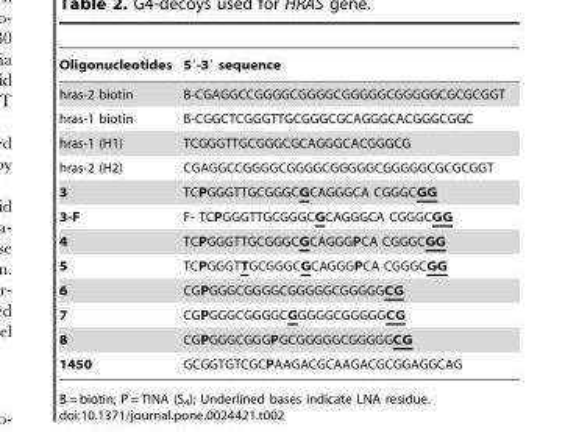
<table><thead><tr><td>Oligonucleotides</td><td>5′-3′ sequence</td></tr></thead><tbody><tr><td>hras-2 biotin</td><td>B-CGAGGCCGGGGCGGGGCGGGGGCGGGGGCGCGCGGT</td></tr><tr><td>hras-1 biotin</td><td>B-CGGCTCGGGTTGCGGGCGCAGGGCACGGGCGGC</td></tr><tr><td>hras-1 (H1)</td><td>TCGGGTTGCGGGCGCAGGGCACGGGCG</td></tr><tr><td>hras-2 (H2)</td><td>CGAGGCCGGGGCGGGGCGGGGGCGGGGGCGCGCGGT</td></tr><tr><td>3</td><td>TCPGGGTTGCGGGCGCAGGGCA CGGGCGG</td></tr><tr><td>3-F</td><td>F- TCPGGGTTGCGGGCGCAGGGCA CGGGCGG</td></tr><tr><td>4</td><td>TCPGGGTTGCGGGCGCAGGGPCA CGGGCGG</td></tr><tr><td>5</td><td>TCPGGGTTGCGGGCGCAGGGPCA CGGGCGG</td></tr><tr><td>6</td><td>CGPGGGCGGGGCGGGGGCGGGGGCG</td></tr><tr><td>7</td><td>CGPGGGCGGGGCGGGGGCGGGGGCG</td></tr><tr><td>8</td><td>CGPGGGCGGGPGCGGGGGCGGGGGCG</td></tr><tr><td>1450</td><td>GCGGTGTCGCPAAGACGCAAGACGCGGAGGCAG</td></tr></tbody></table>